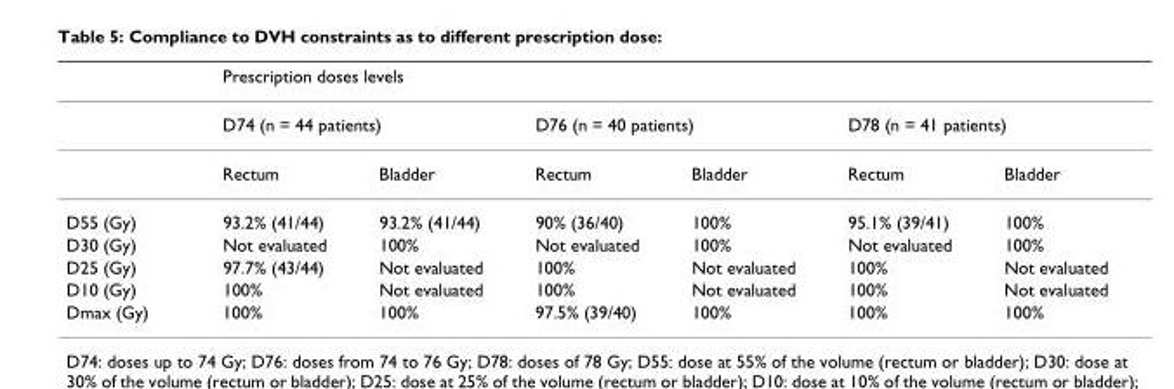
<table><thead><tr><td rowspan="3"></td><td colspan="6">Prescription doses levels</td></tr><tr><td colspan="2">D74 (n = 44 patients)</td><td colspan="2">D76 (n = 40 patients)</td><td colspan="2">D78 (n = 41 patients)</td></tr><tr><td>Rectum</td><td>Bladder</td><td>Rectum</td><td>Bladder</td><td>Rectum</td><td>Bladder</td></tr></thead><tbody><tr><td>D55 (Gy)</td><td>93.2% (41/44)</td><td>93.2% (41/44)</td><td>90% (36/40)</td><td>100%</td><td>95.1% (39/41)</td><td>100%</td></tr><tr><td>D30 (Gy)</td><td>Not evaluated</td><td>100%</td><td>Not evaluated</td><td>100%</td><td>Not evaluated</td><td>100%</td></tr><tr><td>D25 (Gy)</td><td>97.7% (43/44)</td><td>Not evaluated</td><td>100%</td><td>Not evaluated</td><td>100%</td><td>Not evaluated</td></tr><tr><td>D10 (Gy)</td><td>100%</td><td>Not evaluated</td><td>100%</td><td>Not evaluated</td><td>100%</td><td>Not evaluated</td></tr><tr><td>Dmax (Gy)</td><td>100%</td><td>100%</td><td>97.5% (39/40)</td><td>100%</td><td>100%</td><td>100%</td></tr></tbody></table>